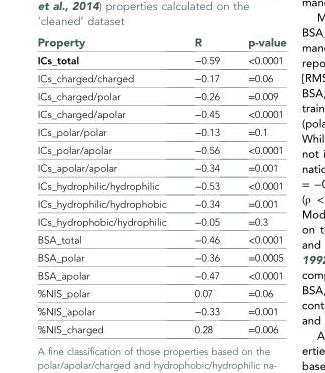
<table><thead><tr><td>Property</td><td>R</td><td>p-value</td></tr></thead><tbody><tr><td>ICs_total</td><td>−0.59</td><td>&lt;0.0001</td></tr><tr><td>ICs_charged/charged</td><td>−0.17</td><td>=0.06</td></tr><tr><td>ICs_charged/polar</td><td>−0.26</td><td>=0.009</td></tr><tr><td>ICs_charged/apolar</td><td>−0.45</td><td>&lt;0.0001</td></tr><tr><td>ICs_polar/polar</td><td>−0.13</td><td>=0.1</td></tr><tr><td>ICs_polar/apolar</td><td>−0.56</td><td>&lt;0.0001</td></tr><tr><td>ICs_apolar/apolar</td><td>−0.34</td><td>=0.001</td></tr><tr><td>ICs_hydrophilic/hydrophilic</td><td>−0.53</td><td>&lt;0.0001</td></tr><tr><td>ICs_hydrophilic/hydrophobic</td><td>−0.34</td><td>=0.001</td></tr><tr><td>ICs_hydrophobic/hydrophilic</td><td>−0.05</td><td>=0.3</td></tr><tr><td>BSA_total</td><td>−0.46</td><td>&lt;0.0001</td></tr><tr><td>BSA_polar</td><td>−0.36</td><td>=0.0005</td></tr><tr><td>BSA_apolar</td><td>−0.47</td><td>&lt;0.0001</td></tr><tr><td>%NIS_polar</td><td>0.07</td><td>=0.06</td></tr><tr><td>%NIS_apolar</td><td>−0.33</td><td>=0.001</td></tr><tr><td>%NIS_charged</td><td>0.28</td><td>=0.006</td></tr></tbody></table>